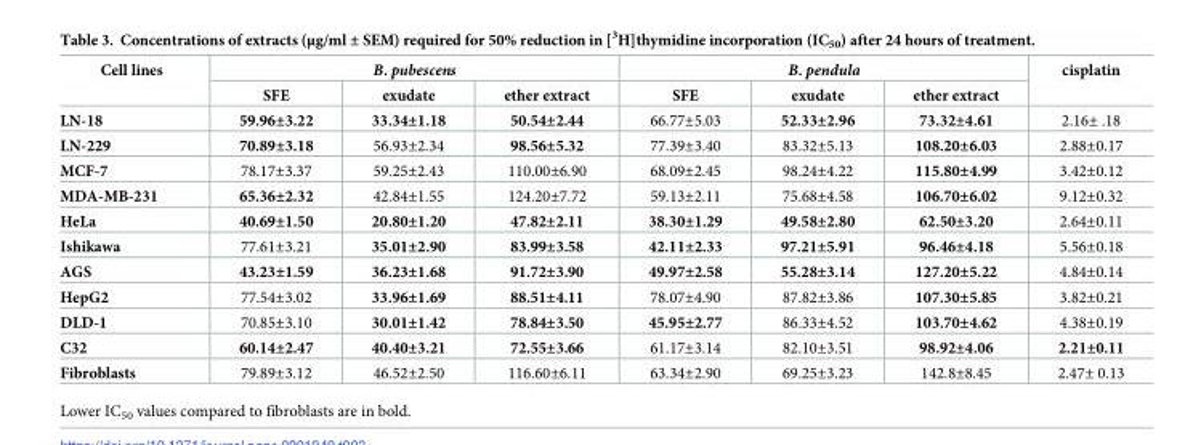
<table><thead><tr><td rowspan="2">Cell lines</td><td colspan="3">B. pubescens</td><td colspan="3">B. pendula</td><td rowspan="2">cisplatin</td></tr><tr><td>SFE</td><td>exudate</td><td>ether extract</td><td>SFE</td><td>exudate</td><td>ether extract</td></tr></thead><tbody><tr><td>LN-18</td><td>59.96±3.22</td><td>33.34±1.18</td><td>50.54±2.44</td><td>66.77±5.03</td><td>52.33±2.96</td><td>73.32±4.61</td><td>2.16± .18</td></tr><tr><td>LN-229</td><td>70.89±3.18</td><td>56.93±2.34</td><td>98.56±5.32</td><td>77.39±3.40</td><td>83.32±5.13</td><td>108.20±6.03</td><td>2.88±0.17</td></tr><tr><td>MCF-7</td><td>78.17±3.37</td><td>59.25±2.43</td><td>110.00±6.90</td><td>68.09±2.45</td><td>98.24±4.22</td><td>115.80±4.99</td><td>3.42±0.12</td></tr><tr><td>MDA-MB-231</td><td>65.36±2.32</td><td>42.84±1.55</td><td>124.20±7.72</td><td>59.13±2.11</td><td>75.68±4.58</td><td>106.70±6.02</td><td>9.12±0.32</td></tr><tr><td>HeLa</td><td>40.69±1.50</td><td>20.80±1.20</td><td>47.82±2.11</td><td>38.30±1.29</td><td>49.58±2.80</td><td>62.50±3.20</td><td>2.64±0.11</td></tr><tr><td>Ishikawa</td><td>77.61±3.21</td><td>35.01±2.90</td><td>83.99±3.58</td><td>42.11±2.33</td><td>97.21±5.91</td><td>96.46±4.18</td><td>5.56±0.18</td></tr><tr><td>AGS</td><td>43.23±1.59</td><td>36.23±1.68</td><td>91.72±3.90</td><td>49.97±2.58</td><td>55.28±3.14</td><td>127.20±5.22</td><td>4.84±0.14</td></tr><tr><td>HepG2</td><td>77.54±3.02</td><td>33.96±1.69</td><td>88.51±4.11</td><td>78.07±4.90</td><td>87.82±3.86</td><td>107.30±5.85</td><td>3.82±0.21</td></tr><tr><td>DLD-1</td><td>70.85±3.10</td><td>30.01±1.42</td><td>78.84±3.50</td><td>45.95±2.77</td><td>86.33±4.52</td><td>103.70±4.62</td><td>4.38±0.19</td></tr><tr><td>C32</td><td>60.14±2.47</td><td>40.40±3.21</td><td>72.55±3.66</td><td>61.17±3.14</td><td>82.10±3.51</td><td>98.92±4.06</td><td>2.21±0.11</td></tr><tr><td>Fibroblasts</td><td>79.89±3.12</td><td>46.52±2.50</td><td>116.60±6.11</td><td>63.34±2.90</td><td>69.25±3.23</td><td>142.8±8.45</td><td>2.47± 0.13</td></tr></tbody></table>